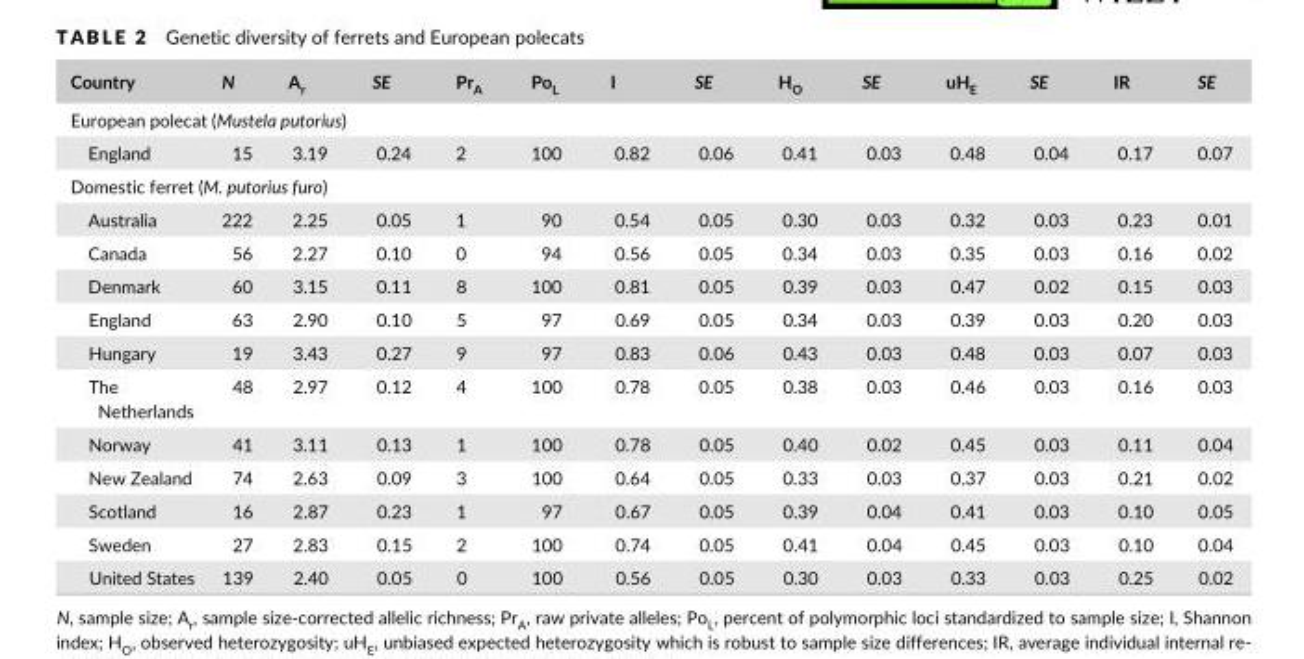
<table><thead><tr><td>Country</td><td>N</td><td>A<sub>r</sub></td><td>SE</td><td>Pr<sub>A</sub></td><td>Po<sub>L</sub></td><td>I</td><td>SE</td><td>H<sub>O</sub></td><td>SE</td><td>uH<sub>E</sub></td><td>SE</td><td>IR</td><td>SE</td></tr></thead><tbody><tr><td colspan="14">European polecat (Mustela putorius)</td></tr><tr><td>England</td><td>15</td><td>3.19</td><td>0.24</td><td>2</td><td>100</td><td>0.82</td><td>0.06</td><td>0.41</td><td>0.03</td><td>0.48</td><td>0.04</td><td>0.17</td><td>0.07</td></tr><tr><td colspan="14">Domestic ferret (M. putorius furo)</td></tr><tr><td>Australia</td><td>222</td><td>2.25</td><td>0.05</td><td>1</td><td>90</td><td>0.54</td><td>0.05</td><td>0.30</td><td>0.03</td><td>0.32</td><td>0.03</td><td>0.23</td><td>0.01</td></tr><tr><td>Canada</td><td>56</td><td>2.27</td><td>0.10</td><td>0</td><td>94</td><td>0.56</td><td>0.05</td><td>0.34</td><td>0.03</td><td>0.35</td><td>0.03</td><td>0.16</td><td>0.02</td></tr><tr><td>Denmark</td><td>60</td><td>3.15</td><td>0.11</td><td>8</td><td>100</td><td>0.81</td><td>0.05</td><td>0.39</td><td>0.03</td><td>0.47</td><td>0.02</td><td>0.15</td><td>0.03</td></tr><tr><td>England</td><td>63</td><td>2.90</td><td>0.10</td><td>5</td><td>97</td><td>0.69</td><td>0.05</td><td>0.34</td><td>0.03</td><td>0.39</td><td>0.03</td><td>0.20</td><td>0.03</td></tr><tr><td>Hungary</td><td>19</td><td>3.43</td><td>0.27</td><td>9</td><td>97</td><td>0.83</td><td>0.06</td><td>0.43</td><td>0.03</td><td>0.48</td><td>0.03</td><td>0.07</td><td>0.03</td></tr><tr><td>The Netherlands</td><td>48</td><td>2.97</td><td>0.12</td><td>4</td><td>100</td><td>0.78</td><td>0.05</td><td>0.38</td><td>0.03</td><td>0.46</td><td>0.03</td><td>0.16</td><td>0.03</td></tr><tr><td>Norway</td><td>41</td><td>3.11</td><td>0.13</td><td>1</td><td>100</td><td>0.78</td><td>0.05</td><td>0.40</td><td>0.02</td><td>0.45</td><td>0.03</td><td>0.11</td><td>0.04</td></tr><tr><td>New Zealand</td><td>74</td><td>2.63</td><td>0.09</td><td>3</td><td>100</td><td>0.64</td><td>0.05</td><td>0.33</td><td>0.03</td><td>0.37</td><td>0.03</td><td>0.21</td><td>0.02</td></tr><tr><td>Scotland</td><td>16</td><td>2.87</td><td>0.23</td><td>1</td><td>97</td><td>0.67</td><td>0.05</td><td>0.39</td><td>0.04</td><td>0.41</td><td>0.03</td><td>0.10</td><td>0.05</td></tr><tr><td>Sweden</td><td>27</td><td>2.83</td><td>0.15</td><td>2</td><td>100</td><td>0.74</td><td>0.05</td><td>0.41</td><td>0.04</td><td>0.45</td><td>0.03</td><td>0.10</td><td>0.04</td></tr><tr><td>United States</td><td>139</td><td>2.40</td><td>0.05</td><td>0</td><td>100</td><td>0.56</td><td>0.05</td><td>0.30</td><td>0.03</td><td>0.33</td><td>0.03</td><td>0.25</td><td>0.02</td></tr></tbody></table>